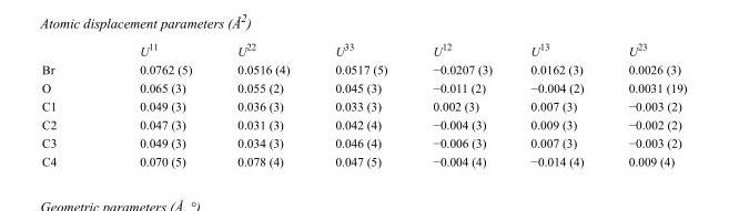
<table><thead><tr><td></td><td>U<sup>11</sup></td><td>U<sup>22</sup></td><td>U<sup>33</sup></td><td>U<sup>12</sup></td><td>U<sup>13</sup></td><td>U<sup>23</sup></td></tr></thead><tbody><tr><td>Br</td><td>0.0762 (5)</td><td>0.0516 (4)</td><td>0.0517 (5)</td><td>−0.0207 (3)</td><td>0.0162 (3)</td><td>0.0026 (3)</td></tr><tr><td>O</td><td>0.065 (3)</td><td>0.055 (2)</td><td>0.045 (3)</td><td>−0.011 (2)</td><td>−0.004 (2)</td><td>0.0031 (19)</td></tr><tr><td>C1</td><td>0.049 (3)</td><td>0.036 (3)</td><td>0.033 (3)</td><td>0.002 (3)</td><td>0.007 (3)</td><td>−0.003 (2)</td></tr><tr><td>C2</td><td>0.047 (3)</td><td>0.031 (3)</td><td>0.042 (4)</td><td>−0.004 (3)</td><td>0.009 (3)</td><td>−0.002 (2)</td></tr><tr><td>C3</td><td>0.049 (3)</td><td>0.034 (3)</td><td>0.046 (4)</td><td>−0.006 (3)</td><td>0.007 (3)</td><td>−0.003 (2)</td></tr><tr><td>C4</td><td>0.070 (5)</td><td>0.078 (4)</td><td>0.047 (5)</td><td>−0.004 (4)</td><td>−0.014 (4)</td><td>0.009 (4)</td></tr></tbody></table>